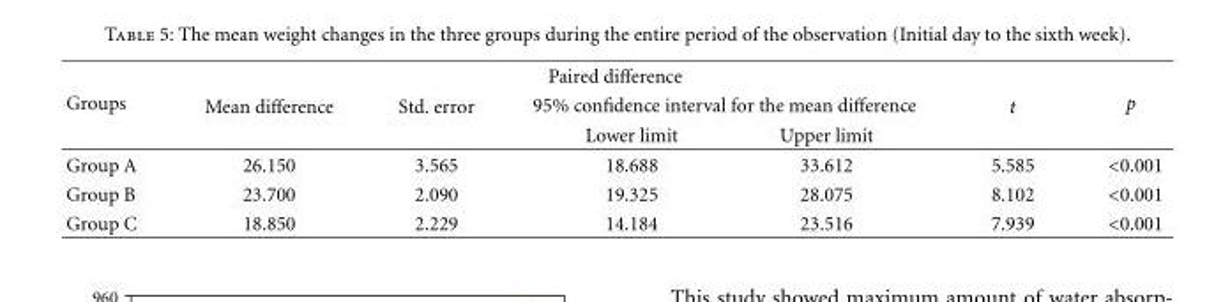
<table><thead><tr><td rowspan="3">Groups</td><td colspan="4">Paired difference</td><td rowspan="3">t</td><td rowspan="3">p</td></tr><tr><td rowspan="2">Mean difference</td><td rowspan="2">Std. error</td><td colspan="2">95% confidence interval for the mean difference</td></tr><tr><td>Lower limit</td><td>Upper limit</td></tr></thead><tbody><tr><td>Group A</td><td>26.150</td><td>3.565</td><td>18.688</td><td>33.612</td><td>5.585</td><td>&lt;0.001</td></tr><tr><td>Group B</td><td>23.700</td><td>2.090</td><td>19.325</td><td>28.075</td><td>8.102</td><td>&lt;0.001</td></tr><tr><td>Group C</td><td>18.850</td><td>2.229</td><td>14.184</td><td>23.516</td><td>7.939</td><td>&lt;0.001</td></tr></tbody></table>